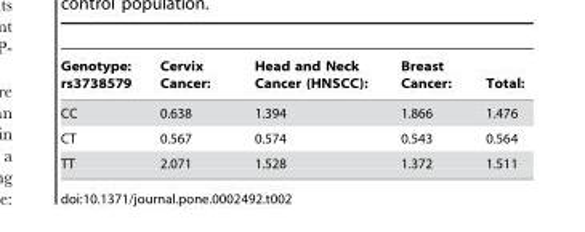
<table><thead><tr><td>Genotype: rs3738579</td><td>Cervix Cancer:</td><td>Head and Neck Cancer (HNSCC):</td><td>Breast Cancer:</td><td>Total:</td></tr></thead><tbody><tr><td>CC</td><td>0.638</td><td>1.394</td><td>1.866</td><td>1.476</td></tr><tr><td>CT</td><td>0.567</td><td>0.574</td><td>0.543</td><td>0.564</td></tr><tr><td>TT</td><td>2.071</td><td>1.528</td><td>1.372</td><td>1.511</td></tr></tbody></table>